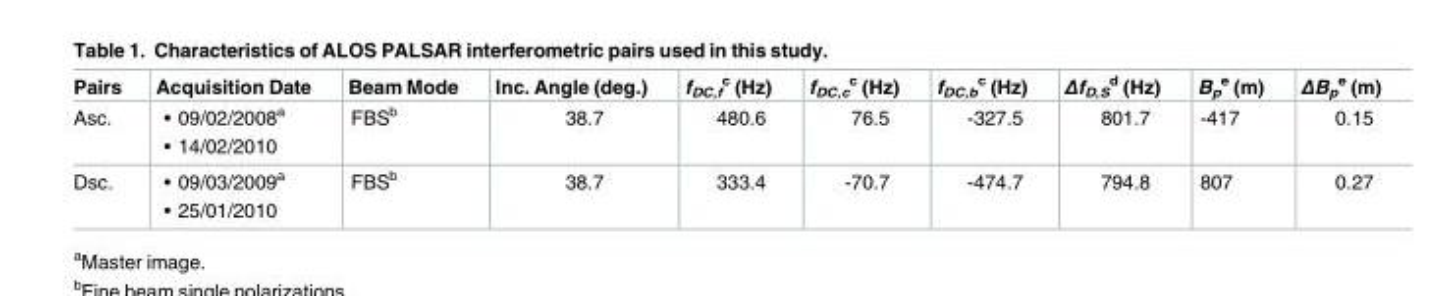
<table><thead><tr><td>Pairs</td><td>Acquisition Date</td><td>Beam Mode</td><td>Inc. Angle (deg.)</td><td>f<sub>DC,f</sub> <sup>c</sup> (Hz)</td><td>f<sub>DC,c</sub> <sup>c</sup> (Hz)</td><td>f<sub>DC,b</sub> <sup>c</sup> (Hz)</td><td>Δf<sub>D,S</sub> <sup>d</sup> (Hz)</td><td>B<sub>p</sub> <sup>e</sup> (m)</td><td>ΔB<sub>p</sub> <sup>e</sup> (m)</td></tr></thead><tbody><tr><td>Asc.</td><td>• 09/02/2008a • 14/02/2010</td><td>FBS<sup>b</sup></td><td>38.7</td><td>480.6</td><td>76.5</td><td>-327.5</td><td>801.7</td><td>-417</td><td>0.15</td></tr><tr><td>Dsc.</td><td>• 09/03/2009a • 25/01/2010</td><td>FBS<sup>b</sup></td><td>38.7</td><td>333.4</td><td>-70.7</td><td>-474.7</td><td>794.8</td><td>807</td><td>0.27</td></tr></tbody></table>